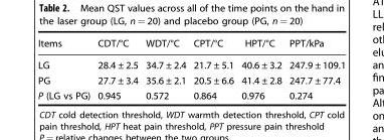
<table><thead><tr><td>Items</td><td>CDT/°C</td><td>WDT/°C</td><td>CPT/°C</td><td>HPT/°C</td><td>PPT/kPa</td></tr></thead><tbody><tr><td>LG</td><td>28.4 ± 2.5</td><td>34.7 ± 2.4</td><td>21.7 ± 5.1</td><td>40.6 ± 3.2</td><td>247.9 ± 109.1</td></tr><tr><td>PG</td><td>27.7 ± 3.4</td><td>35.6 ± 2.1</td><td>20.5 ± 6.6</td><td>41.4 ± 2.8</td><td>247.7 ± 77.4</td></tr><tr><td>P (LG vs PG)</td><td>0.945</td><td>0.572</td><td>0.864</td><td>0.976</td><td>0.274</td></tr></tbody></table>